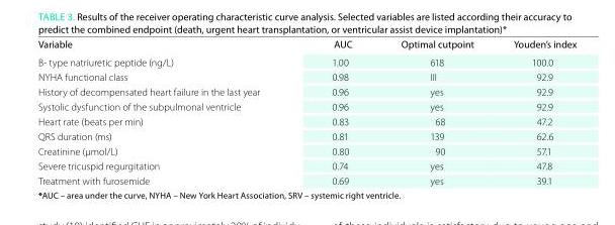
<table><thead><tr><td>Variable</td><td>aUC</td><td>optimal cutpoint</td><td>Youden’s index</td></tr></thead><tbody><tr><td>B- type natriuretic peptide (ng/L)</td><td>1.00</td><td>618</td><td>100.0</td></tr><tr><td>NYHA functional class</td><td>0.98</td><td>III</td><td>92.9</td></tr><tr><td>History of decompensated heart failure in the last year</td><td>0.96</td><td>yes</td><td>92.9</td></tr><tr><td>Systolic dysfunction of the subpulmonal ventricle</td><td>0.96</td><td>yes</td><td>92.9</td></tr><tr><td>Heart rate (beats per min)</td><td>0.83</td><td>68</td><td>47.2</td></tr><tr><td>QRS duration (ms)</td><td>0.81</td><td>139</td><td>62.6</td></tr><tr><td>Creatinine (µmol/L)</td><td>0.80</td><td>90</td><td>57.1</td></tr><tr><td>Severe tricuspid regurgitation</td><td>0.74</td><td>yes</td><td>47.8</td></tr><tr><td>Treatment with furosemide</td><td>0.69</td><td>yes</td><td>39.1</td></tr></tbody></table>